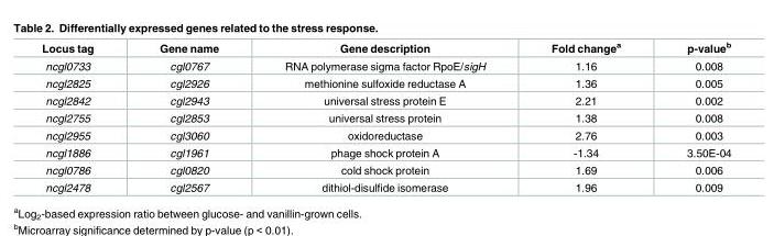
<table><thead><tr><td>Locus tag</td><td>Gene name</td><td>Gene description</td><td>Fold change<sup>a</sup></td><td>p-value<sup>b</sup></td></tr></thead><tbody><tr><td>ncgl0733</td><td>cgl0767</td><td>RNA polymerase sigma factor RpoE/sigH</td><td>1.16</td><td>0.008</td></tr><tr><td>ncgl2825</td><td>cgl2926</td><td>methionine sulfoxide reductase A</td><td>1.36</td><td>0.005</td></tr><tr><td>ncgl2842</td><td>cgl2943</td><td>universal stress protein E</td><td>2.21</td><td>0.002</td></tr><tr><td>ncgl2755</td><td>cgl2853</td><td>universal stress protein</td><td>1.38</td><td>0.008</td></tr><tr><td>ncgl2955</td><td>cgl3060</td><td>oxidoreductase</td><td>2.76</td><td>0.003</td></tr><tr><td>ncgl1886</td><td>cgl1961</td><td>phage shock protein A</td><td>-1.34</td><td>3.50E-04</td></tr><tr><td>ncgl0786</td><td>cgl0820</td><td>cold shock protein</td><td>1.69</td><td>0.006</td></tr><tr><td>ncgl2478</td><td>cgl2567</td><td>dithiol-disulfide isomerase</td><td>1.96</td><td>0.009</td></tr></tbody></table>